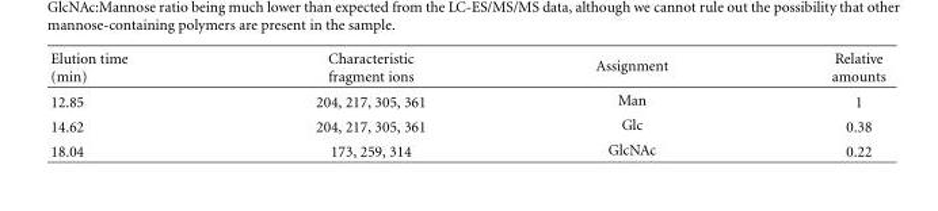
<table><thead><tr><td>Elution time (min)</td><td>Characteristic fragment ions</td><td>Assignment</td><td>Relative amounts</td></tr></thead><tbody><tr><td>12.85</td><td>204, 217, 305, 361</td><td>Man</td><td>1</td></tr><tr><td>14.62</td><td>204, 217, 305, 361</td><td>Glc</td><td>0.38</td></tr><tr><td>18.04</td><td>173, 259, 314</td><td>GlcNAc</td><td>0.22</td></tr></tbody></table>